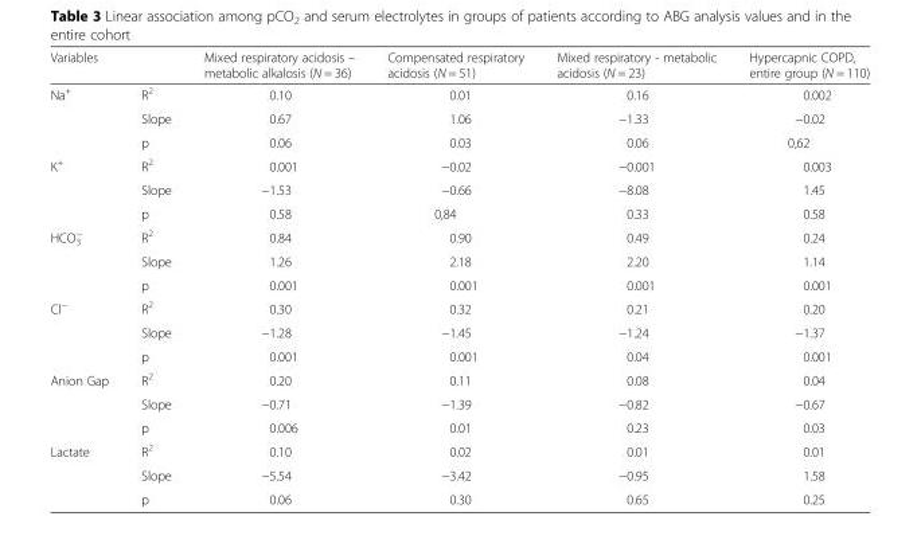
<table><thead><tr><td>Variables</td><td></td><td>Mixed respiratory acidosis – metabolic alkalosis (N = 36)</td><td>Compensated respiratory acidosis (N = 51)</td><td>Mixed respiratory - metabolic acidosis (N = 23)</td><td>Hypercapnic COPD, entire group (N = 110)</td></tr></thead><tbody><tr><td rowspan="3">Na<sup>+</sup></td><td>R<sup>2</sup></td><td>0.10</td><td>0.01</td><td>0.16</td><td>0.002</td></tr><tr><td>Slope</td><td>0.67</td><td>1.06</td><td>−1.33</td><td>−0.02</td></tr><tr><td>p</td><td>0.06</td><td>0.03</td><td>0.06</td><td>0,62</td></tr><tr><td rowspan="3">K<sup>+</sup></td><td>R<sup>2</sup></td><td>0.001</td><td>−0.02</td><td>−0.001</td><td>0.003</td></tr><tr><td>Slope</td><td>−1.53</td><td>−0.66</td><td>−8.08</td><td>1.45</td></tr><tr><td>p</td><td>0.58</td><td>0,84</td><td>0.33</td><td>0.58</td></tr><tr><td rowspan="3">HCO<sub>3</sub> <sup>−</sup></td><td>R<sup>2</sup></td><td>0.84</td><td>0.90</td><td>0.49</td><td>0.24</td></tr><tr><td>Slope</td><td>1.26</td><td>2.18</td><td>2.20</td><td>1.14</td></tr><tr><td>p</td><td>0.001</td><td>0.001</td><td>0.001</td><td>0.001</td></tr><tr><td rowspan="3">Cl<sup>−</sup></td><td>R<sup>2</sup></td><td>0.30</td><td>0.32</td><td>0.21</td><td>0.20</td></tr><tr><td>Slope</td><td>−1.28</td><td>−1.45</td><td>−1.24</td><td>−1.37</td></tr><tr><td>p</td><td>0.001</td><td>0.001</td><td>0.04</td><td>0.001</td></tr><tr><td rowspan="3">Anion Gap</td><td>R<sup>2</sup></td><td>0.20</td><td>0.11</td><td>0.08</td><td>0.04</td></tr><tr><td>Slope</td><td>−0.71</td><td>−1.39</td><td>−0.82</td><td>−0.67</td></tr><tr><td>p</td><td>0.006</td><td>0.01</td><td>0.23</td><td>0.03</td></tr><tr><td rowspan="3">Lactate</td><td>R<sup>2</sup></td><td>0.10</td><td>0.02</td><td>0.01</td><td>0.01</td></tr><tr><td>Slope</td><td>−5.54</td><td>−3.42</td><td>−0.95</td><td>1.58</td></tr><tr><td>p</td><td>0.06</td><td>0.30</td><td>0.65</td><td>0.25</td></tr></tbody></table>